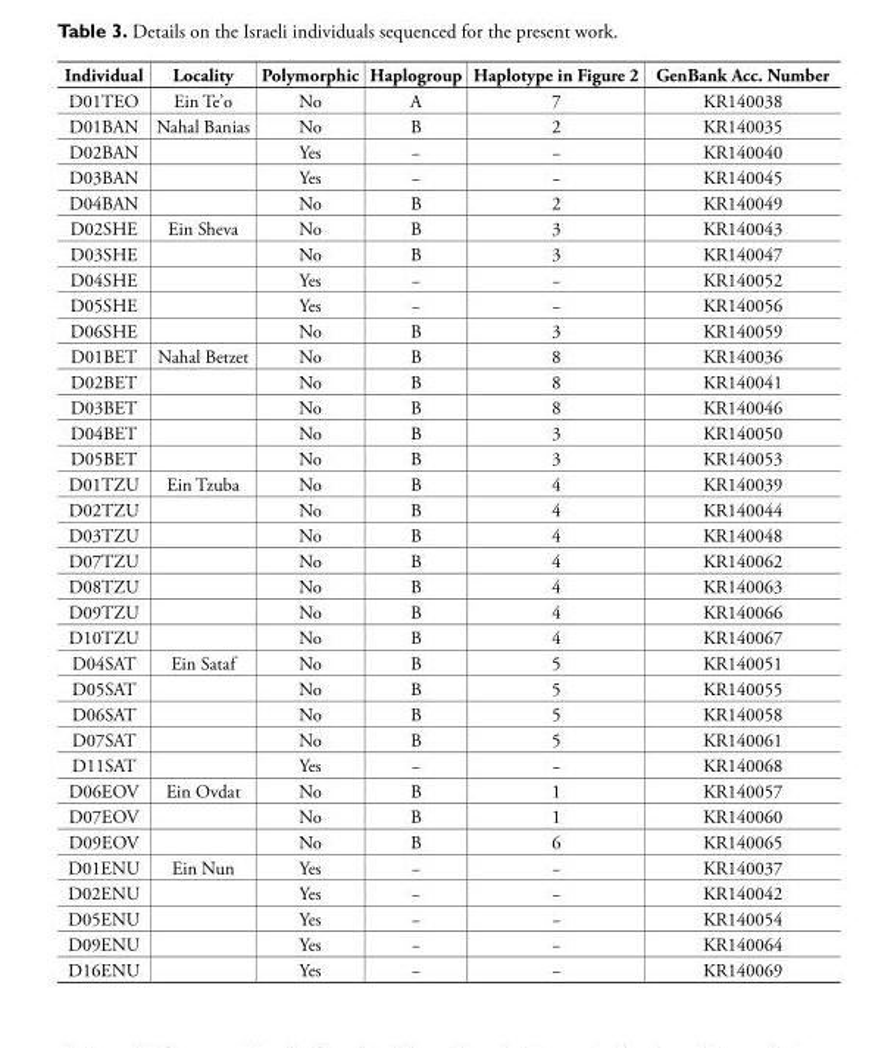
<table><thead><tr><td>Individual</td><td>Locality</td><td>Polymorphic</td><td>Haplogroup</td><td>Haplotype in Figure 2</td><td>GenBank Acc. Number</td></tr></thead><tbody><tr><td>D01TEO</td><td>Ein Te’o</td><td>No</td><td>A</td><td>7</td><td>KR140038</td></tr><tr><td>D01BAN</td><td>Nahal Banias</td><td>No</td><td>B</td><td>2</td><td>KR140035</td></tr><tr><td>D02BAN</td><td></td><td>Yes</td><td>−</td><td>−</td><td>KR140040</td></tr><tr><td>D03BAN</td><td></td><td>Yes</td><td>−</td><td>−</td><td>KR140045</td></tr><tr><td>D04BAN</td><td></td><td>No</td><td>B</td><td>2</td><td>KR140049</td></tr><tr><td>D02SHE</td><td>Ein Sheva</td><td>No</td><td>B</td><td>3</td><td>KR140043</td></tr><tr><td>D03SHE</td><td></td><td>No</td><td>B</td><td>3</td><td>KR140047</td></tr><tr><td>D04SHE</td><td></td><td>Yes</td><td>−</td><td>−</td><td>KR140052</td></tr><tr><td>D05SHE</td><td></td><td>Yes</td><td>−</td><td>−</td><td>KR140056</td></tr><tr><td>D06SHE</td><td></td><td>No</td><td>B</td><td>3</td><td>KR140059</td></tr><tr><td>D01BET</td><td>Nahal Betzet</td><td>No</td><td>B</td><td>8</td><td>KR140036</td></tr><tr><td>D02BET</td><td></td><td>No</td><td>B</td><td>8</td><td>KR140041</td></tr><tr><td>D03BET</td><td></td><td>No</td><td>B</td><td>8</td><td>KR140046</td></tr><tr><td>D04BET</td><td></td><td>No</td><td>B</td><td>3</td><td>KR140050</td></tr><tr><td>D05BET</td><td></td><td>No</td><td>B</td><td>3</td><td>KR140053</td></tr><tr><td>D01TZU</td><td>Ein Tzuba</td><td>No</td><td>B</td><td>4</td><td>KR140039</td></tr><tr><td>D02TZU</td><td></td><td>No</td><td>B</td><td>4</td><td>KR140044</td></tr><tr><td>D03TZU</td><td></td><td>No</td><td>B</td><td>4</td><td>KR140048</td></tr><tr><td>D07TZU</td><td></td><td>No</td><td>B</td><td>4</td><td>KR140062</td></tr><tr><td>D08TZU</td><td></td><td>No</td><td>B</td><td>4</td><td>KR140063</td></tr><tr><td>D09TZU</td><td></td><td>No</td><td>B</td><td>4</td><td>KR140066</td></tr><tr><td>D10TZU</td><td></td><td>No</td><td>B</td><td>4</td><td>KR140067</td></tr><tr><td>D04SAT</td><td>Ein Sataf</td><td>No</td><td>B</td><td>5</td><td>KR140051</td></tr><tr><td>D05SAT</td><td></td><td>No</td><td>B</td><td>5</td><td>KR140055</td></tr><tr><td>D06SAT</td><td></td><td>No</td><td>B</td><td>5</td><td>KR140058</td></tr><tr><td>D07SAT</td><td></td><td>No</td><td>B</td><td>5</td><td>KR140061</td></tr><tr><td>D11SAT</td><td></td><td>Yes</td><td>−</td><td>−</td><td>KR140068</td></tr><tr><td>D06EOV</td><td>Ein Ovdat</td><td>No</td><td>B</td><td>1</td><td>KR140057</td></tr><tr><td>D07EOV</td><td></td><td>No</td><td>B</td><td>1</td><td>KR140060</td></tr><tr><td>D09EOV</td><td></td><td>No</td><td>B</td><td>6</td><td>KR140065</td></tr><tr><td>D01ENU</td><td>Ein Nun</td><td>Yes</td><td>−</td><td>−</td><td>KR140037</td></tr><tr><td>D02ENU</td><td></td><td>Yes</td><td>−</td><td>−</td><td>KR140042</td></tr><tr><td>D05ENU</td><td></td><td>Yes</td><td>−</td><td>−</td><td>KR140054</td></tr><tr><td>D09ENU</td><td></td><td>Yes</td><td>−</td><td>−</td><td>KR140064</td></tr><tr><td>D16ENU</td><td></td><td>Yes</td><td>−</td><td>−</td><td>KR140069</td></tr></tbody></table>